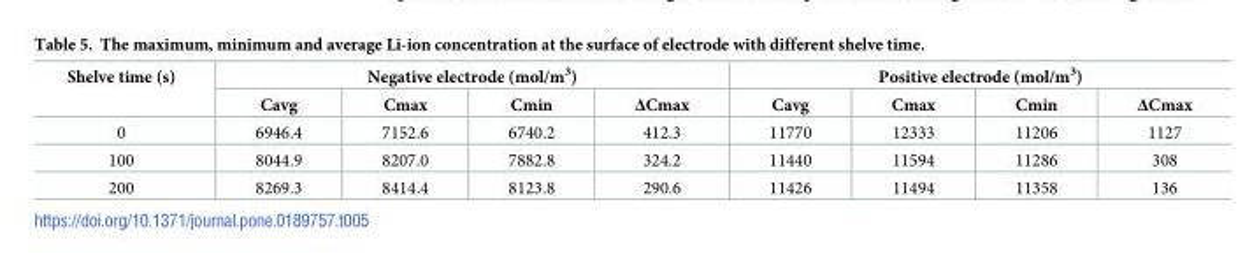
<table><thead><tr><td rowspan="2">Shelve time (s)</td><td colspan="4">Negative electrode (mol/m<sup>3</sup>)</td><td colspan="4">Positive electrode (mol/m<sup>3</sup>)</td></tr><tr><td>Cavg</td><td>Cmax</td><td>Cmin</td><td>ΔCmax</td><td>Cavg</td><td>Cmax</td><td>Cmin</td><td>ΔCmax</td></tr></thead><tbody><tr><td>0</td><td>6946.4</td><td>7152.6</td><td>6740.2</td><td>412.3</td><td>11770</td><td>12333</td><td>11206</td><td>1127</td></tr><tr><td>100</td><td>8044.9</td><td>8207.0</td><td>7882.8</td><td>324.2</td><td>11440</td><td>11594</td><td>11286</td><td>308</td></tr><tr><td>200</td><td>8269.3</td><td>8414.4</td><td>8123.8</td><td>290.6</td><td>11426</td><td>11494</td><td>11358</td><td>136</td></tr></tbody></table>